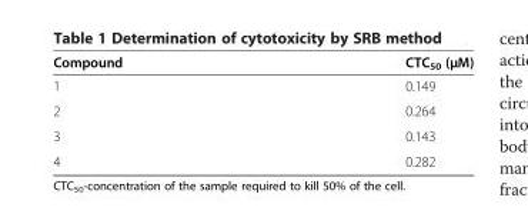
<table><thead><tr><td>Compound</td><td>CTC<sub>50</sub> (μM)</td></tr></thead><tbody><tr><td>1</td><td>0.149</td></tr><tr><td>2</td><td>0.264</td></tr><tr><td>3</td><td>0.143</td></tr><tr><td>4</td><td>0.282</td></tr></tbody></table>